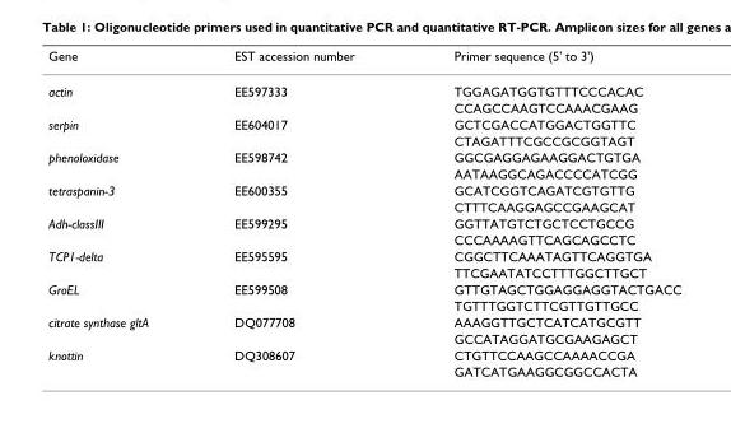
<table><thead><tr><td>Gene</td><td>EST accession number</td><td>Primer sequence (5&#x27; to 3&#x27;)</td></tr></thead><tbody><tr><td rowspan="2">actin</td><td>EE597333</td><td>TGGAGATGGTGTTTCCCACAC</td></tr><tr><td></td><td>CCAGCCAAGTCCAAACGAAG</td></tr><tr><td rowspan="2">serpin</td><td>EE604017</td><td>GCTCGACCATGGACTGGTTC</td></tr><tr><td></td><td>CTAGATTTCGCCGCGGTAGT</td></tr><tr><td rowspan="2">phenoloxidase</td><td>EE598742</td><td>GGCGAGGAGAAGGACTGTGA</td></tr><tr><td></td><td>AATAAGGCAGACCCCATCGG</td></tr><tr><td rowspan="2">tetraspanin-3</td><td>EE600355</td><td>GCATCGGTCAGATCGTGTTG</td></tr><tr><td></td><td>CTTTCAAGGAGCCGAAGCAT</td></tr><tr><td rowspan="2">Adh-classIII</td><td>EE599295</td><td>GGTTATGTCTGCTCCTGCCG</td></tr><tr><td></td><td>CCCAAAAGTTCAGCAGCCTC</td></tr><tr><td rowspan="2">TCP1-delta</td><td>EE595595</td><td>CGGCTTCAAATAGTTCAGGTGA</td></tr><tr><td></td><td>TTCGAATATCCTTTGGCTTGCT</td></tr><tr><td rowspan="2">GroEL</td><td>EE599508</td><td>GTTGTAGCTGGAGGAGGTACTGACC</td></tr><tr><td></td><td>TGTTTGGTCTTCGTTGTTGCC</td></tr><tr><td rowspan="2">citrate synthase gltA</td><td>DQ077708</td><td>AAAGGTTGCTCATCATGCGTT</td></tr><tr><td></td><td>GCCATAGGATGCGAAGAGCT</td></tr><tr><td rowspan="2">knottin</td><td>DQ308607</td><td>CTGTTCCAAGCCAAAACCGA</td></tr><tr><td></td><td>GATCATGAAGGCGGCCACTA</td></tr></tbody></table>